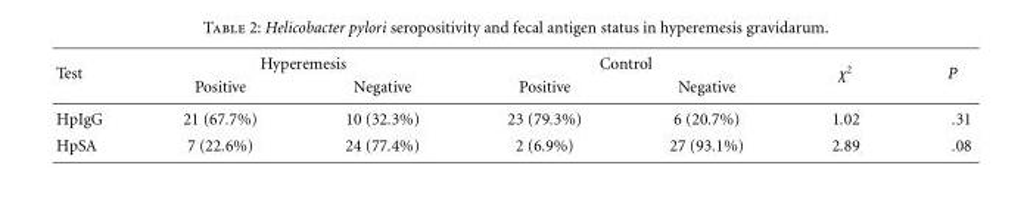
<table><tbody><tr><td rowspan="2">Test</td><td colspan="2">Hyperemesis</td><td colspan="2">Control</td><td rowspan="2">χ<sup>2</sup></td><td rowspan="2">P</td></tr><tr><td>Positive</td><td>Negative</td><td>Positive</td><td>Negative</td></tr><tr><td>HpIgG</td><td>21 (67.7%)</td><td>10 (32.3%)</td><td>23 (79.3%)</td><td>6 (20.7%)</td><td>1.02</td><td>.31</td></tr><tr><td>HpSA</td><td>7 (22.6%)</td><td>24 (77.4%)</td><td>2 (6.9%)</td><td>27 (93.1%)</td><td>2.89</td><td>.08</td></tr></tbody></table>